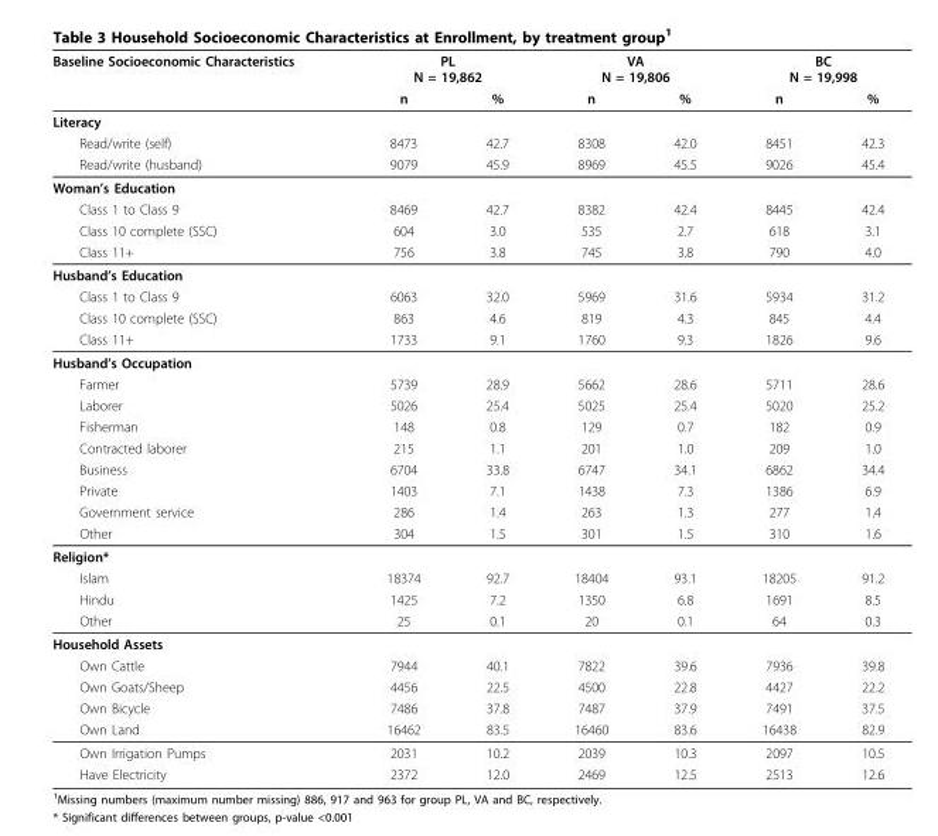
<table><thead><tr><td rowspan="2">Baseline Socioeconomic Characteristics</td><td colspan="2">PL N = 19,862</td><td colspan="2">VA N = 19,806</td><td colspan="2">BC N = 19,998</td></tr><tr><td>n</td><td>%</td><td>n</td><td>%</td><td>n</td><td>%</td></tr></thead><tbody><tr><td colspan="7">Literacy</td></tr><tr><td>Read/write (self)</td><td>8473</td><td>42.7</td><td>8308</td><td>42.0</td><td>8451</td><td>42.3</td></tr><tr><td>Read/write (husband)</td><td>9079</td><td>45.9</td><td>8969</td><td>45.5</td><td>9026</td><td>45.4</td></tr><tr><td colspan="7">Woman’s Education</td></tr><tr><td>Class 1 to Class 9</td><td>8469</td><td>42.7</td><td>8382</td><td>42.4</td><td>8445</td><td>42.4</td></tr><tr><td>Class 10 complete (SSC)</td><td>604</td><td>3.0</td><td>535</td><td>2.7</td><td>618</td><td>3.1</td></tr><tr><td>Class 11+</td><td>756</td><td>3.8</td><td>745</td><td>3.8</td><td>790</td><td>4.0</td></tr><tr><td colspan="7">Husband’s Education</td></tr><tr><td>Class 1 to Class 9</td><td>6063</td><td>32.0</td><td>5969</td><td>31.6</td><td>5934</td><td>31.2</td></tr><tr><td>Class 10 complete (SSC)</td><td>863</td><td>4.6</td><td>819</td><td>4.3</td><td>845</td><td>4.4</td></tr><tr><td>Class 11+</td><td>1733</td><td>9.1</td><td>1760</td><td>9.3</td><td>1826</td><td>9.6</td></tr><tr><td colspan="7">Husband’s Occupation</td></tr><tr><td>Farmer</td><td>5739</td><td>28.9</td><td>5662</td><td>28.6</td><td>5711</td><td>28.6</td></tr><tr><td>Laborer</td><td>5026</td><td>25.4</td><td>5025</td><td>25.4</td><td>5020</td><td>25.2</td></tr><tr><td>Fisherman</td><td>148</td><td>0.8</td><td>129</td><td>0.7</td><td>182</td><td>0.9</td></tr><tr><td>Contracted laborer</td><td>215</td><td>1.1</td><td>201</td><td>1.0</td><td>209</td><td>1.0</td></tr><tr><td>Business</td><td>6704</td><td>33.8</td><td>6747</td><td>34.1</td><td>6862</td><td>34.4</td></tr><tr><td>Private</td><td>1403</td><td>7.1</td><td>1438</td><td>7.3</td><td>1386</td><td>6.9</td></tr><tr><td>Government service</td><td>286</td><td>1.4</td><td>263</td><td>1.3</td><td>277</td><td>1.4</td></tr><tr><td>Other</td><td>304</td><td>1.5</td><td>301</td><td>1.5</td><td>310</td><td>1.6</td></tr><tr><td colspan="7">Religion*</td></tr><tr><td>Islam</td><td>18374</td><td>92.7</td><td>18404</td><td>93.1</td><td>18205</td><td>91.2</td></tr><tr><td>Hindu</td><td>1425</td><td>7.2</td><td>1350</td><td>6.8</td><td>1691</td><td>8.5</td></tr><tr><td>Other</td><td>25</td><td>0.1</td><td>20</td><td>0.1</td><td>64</td><td>0.3</td></tr><tr><td colspan="7">Household Assets</td></tr><tr><td>Own Cattle</td><td>7944</td><td>40.1</td><td>7822</td><td>39.6</td><td>7936</td><td>39.8</td></tr><tr><td>Own Goats/Sheep</td><td>4456</td><td>22.5</td><td>4500</td><td>22.8</td><td>4427</td><td>22.2</td></tr><tr><td>Own Bicycle</td><td>7486</td><td>37.8</td><td>7487</td><td>37.9</td><td>7491</td><td>37.5</td></tr><tr><td>Own Land</td><td>16462</td><td>83.5</td><td>16460</td><td>83.6</td><td>16438</td><td>82.9</td></tr><tr><td>Own Irrigation Pumps</td><td>2031</td><td>10.2</td><td>2039</td><td>10.3</td><td>2097</td><td>10.5</td></tr><tr><td>Have Electricity</td><td>2372</td><td>12.0</td><td>2469</td><td>12.5</td><td>2513</td><td>12.6</td></tr></tbody></table>